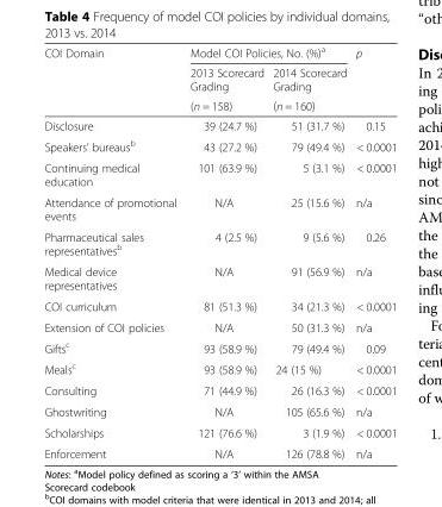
<table><thead><tr><td rowspan="3">COI Domain</td><td colspan="2">Model COI Policies, No. (%)<sup>a</sup></td><td rowspan="3">p</td></tr><tr><td rowspan="2">2013 Scorecard Grading (n = 158)</td><td rowspan="2">2014 Scorecard Grading (n = 160)</td></tr><tr></tr></thead><tbody><tr><td>Disclosure</td><td>39 (24.7 %)</td><td>51 (31.7 %)</td><td>0.15</td></tr><tr><td>Speakers’ bureaus<sup>b</sup></td><td>43 (27.2 %)</td><td>79 (49.4 %)</td><td>&lt; 0.0001</td></tr><tr><td>Continuing medical education</td><td>101 (63.9 %)</td><td>5 (3.1 %)</td><td>&lt; 0.0001</td></tr><tr><td>Attendance of promotional events</td><td>N/A</td><td>25 (15.6 %)</td><td>n/a</td></tr><tr><td>Pharmaceutical sales representatives<sup>b</sup></td><td>4 (2.5 %)</td><td>9 (5.6 %)</td><td>0.26</td></tr><tr><td>Medical device representatives</td><td>N/A</td><td>91 (56.9 %)</td><td>n/a</td></tr><tr><td>COI curriculum</td><td>81 (51.3 %)</td><td>34 (21.3 %)</td><td>&lt; 0.0001</td></tr><tr><td>Extension of COI policies</td><td>N/A</td><td>50 (31.3 %)</td><td>n/a</td></tr><tr><td>Gifts<sup>c</sup></td><td>93 (58.9 %)</td><td>79 (49.4 %)</td><td>0.09</td></tr><tr><td>Meals<sup>c</sup></td><td>93 (58.9 %)</td><td>24 (15 %)</td><td>&lt; 0.0001</td></tr><tr><td>Consulting</td><td>71 (44.9 %)</td><td>26 (16.3 %)</td><td>&lt; 0.0001</td></tr><tr><td>Ghostwriting</td><td>N/A</td><td>105 (65.6 %)</td><td>n/a</td></tr><tr><td>Scholarships</td><td>121 (76.6 %)</td><td>3 (1.9 %)</td><td>&lt; 0.0001</td></tr><tr><td>Enforcement</td><td>N/A</td><td>126 (78.8 %)</td><td>n/a</td></tr></tbody></table>